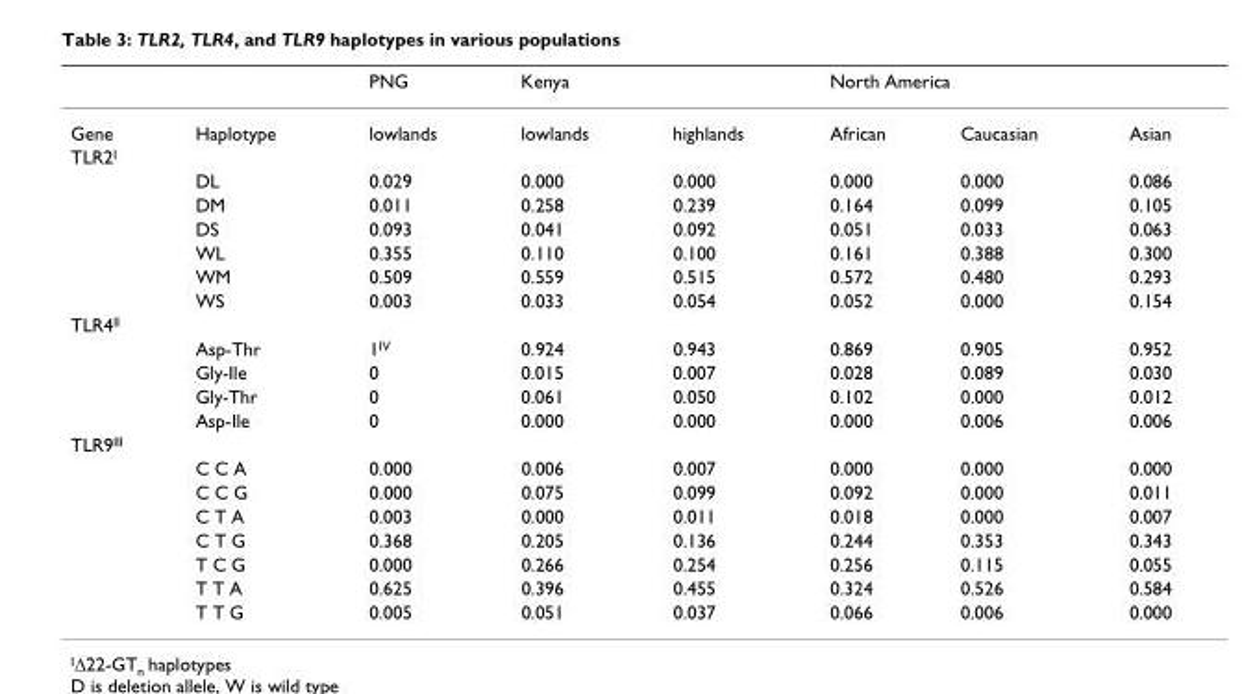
<table><thead><tr><td rowspan="2">Gene</td><td rowspan="2">Haplotype</td><td rowspan="2">PNG lowlands</td><td colspan="2">Kenya</td><td colspan="3">North America</td></tr><tr><td>lowlands</td><td>highlands</td><td>African</td><td>Caucasian</td><td>Asian</td></tr></thead><tbody><tr><td colspan="8">TLR2<sup>I</sup></td></tr><tr><td></td><td>DL</td><td>0.029</td><td>0.000</td><td>0.000</td><td>0.000</td><td>0.000</td><td>0.086</td></tr><tr><td></td><td>DM</td><td>0.011</td><td>0.258</td><td>0.239</td><td>0.164</td><td>0.099</td><td>0.105</td></tr><tr><td></td><td>DS</td><td>0.093</td><td>0.041</td><td>0.092</td><td>0.051</td><td>0.033</td><td>0.063</td></tr><tr><td></td><td>WL</td><td>0.355</td><td>0.110</td><td>0.100</td><td>0.161</td><td>0.388</td><td>0.300</td></tr><tr><td></td><td>WM</td><td>0.509</td><td>0.559</td><td>0.515</td><td>0.572</td><td>0.480</td><td>0.293</td></tr><tr><td></td><td>WS</td><td>0.003</td><td>0.033</td><td>0.054</td><td>0.052</td><td>0.000</td><td>0.154</td></tr><tr><td colspan="8">TLR4<sup>II</sup></td></tr><tr><td></td><td>Asp-Thr</td><td>1<sup>IV</sup></td><td>0.924</td><td>0.943</td><td>0.869</td><td>0.905</td><td>0.952</td></tr><tr><td></td><td>Gly-Ile</td><td>0</td><td>0.015</td><td>0.007</td><td>0.028</td><td>0.089</td><td>0.030</td></tr><tr><td></td><td>Gly-Thr</td><td>0</td><td>0.061</td><td>0.050</td><td>0.102</td><td>0.000</td><td>0.012</td></tr><tr><td></td><td>Asp-Ile</td><td>0</td><td>0.000</td><td>0.000</td><td>0.000</td><td>0.006</td><td>0.006</td></tr><tr><td colspan="8">TLR9<sup>III</sup></td></tr><tr><td></td><td>C C A</td><td>0.000</td><td>0.006</td><td>0.007</td><td>0.000</td><td>0.000</td><td>0.000</td></tr><tr><td></td><td>C C G</td><td>0.000</td><td>0.075</td><td>0.099</td><td>0.092</td><td>0.000</td><td>0.011</td></tr><tr><td></td><td>C T A</td><td>0.003</td><td>0.000</td><td>0.011</td><td>0.018</td><td>0.000</td><td>0.007</td></tr><tr><td></td><td>C T G</td><td>0.368</td><td>0.205</td><td>0.136</td><td>0.244</td><td>0.353</td><td>0.343</td></tr><tr><td></td><td>T C G</td><td>0.000</td><td>0.266</td><td>0.254</td><td>0.256</td><td>0.115</td><td>0.055</td></tr><tr><td></td><td>T T A</td><td>0.625</td><td>0.396</td><td>0.455</td><td>0.324</td><td>0.526</td><td>0.584</td></tr><tr><td></td><td>T T G</td><td>0.005</td><td>0.051</td><td>0.037</td><td>0.066</td><td>0.006</td><td>0.000</td></tr></tbody></table>